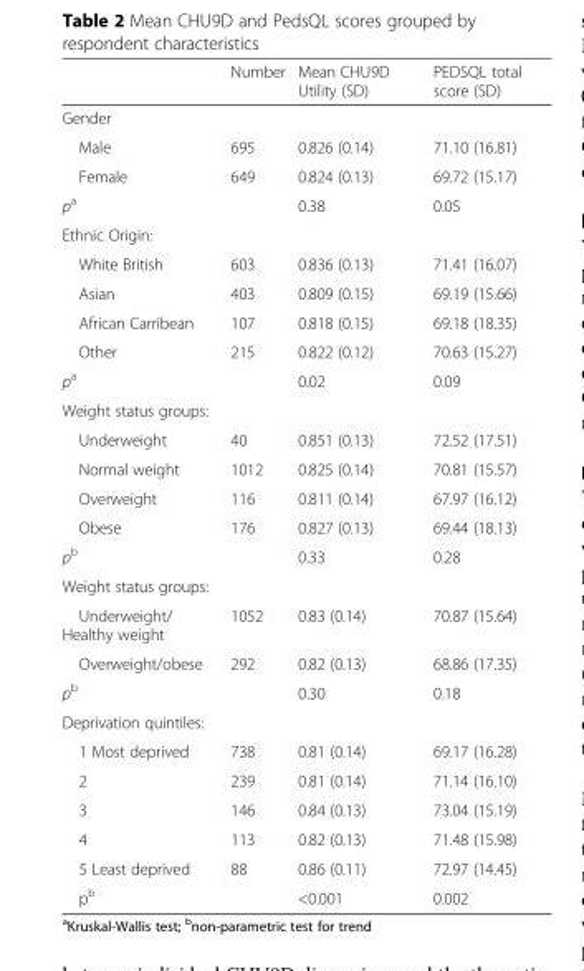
<table><thead><tr><td></td><td>Number</td><td>Mean CHU9D Utility (SD)</td><td>PEDSQL total score (SD)</td></tr></thead><tbody><tr><td colspan="4">Gender</td></tr><tr><td>Male</td><td>695</td><td>0.826 (0.14)</td><td>71.10 (16.81)</td></tr><tr><td>Female</td><td>649</td><td>0.824 (0.13)</td><td>69.72 (15.17)</td></tr><tr><td>p<sup>a</sup></td><td></td><td>0.38</td><td>0.05</td></tr><tr><td colspan="4">Ethnic Origin:</td></tr><tr><td>White British</td><td>603</td><td>0.836 (0.13)</td><td>71.41 (16.07)</td></tr><tr><td>Asian</td><td>403</td><td>0.809 (0.15)</td><td>69.19 (15.66)</td></tr><tr><td>African Carribean</td><td>107</td><td>0.818 (0.15)</td><td>69.18 (18.35)</td></tr><tr><td>Other</td><td>215</td><td>0.822 (0.12)</td><td>70.63 (15.27)</td></tr><tr><td>p<sup>a</sup></td><td></td><td>0.02</td><td>0.09</td></tr><tr><td colspan="4">Weight status groups:</td></tr><tr><td>Underweight</td><td>40</td><td>0.851 (0.13)</td><td>72.52 (17.51)</td></tr><tr><td>Normal weight</td><td>1012</td><td>0.825 (0.14)</td><td>70.81 (15.57)</td></tr><tr><td>Overweight</td><td>116</td><td>0.811 (0.14)</td><td>67.97 (16.12)</td></tr><tr><td>Obese</td><td>176</td><td>0.827 (0.13)</td><td>69.44 (18.13)</td></tr><tr><td>p<sup>b</sup></td><td></td><td>0.33</td><td>0.28</td></tr><tr><td colspan="4">Weight status groups:</td></tr><tr><td>Underweight/ Healthy weight</td><td>1052</td><td>0.83 (0.14)</td><td>70.87 (15.64)</td></tr><tr><td>Overweight/obese</td><td>292</td><td>0.82 (0.13)</td><td>68.86 (17.35)</td></tr><tr><td>p<sup>b</sup></td><td></td><td>0.30</td><td>0.18</td></tr><tr><td colspan="4">Deprivation quintiles:</td></tr><tr><td>1 Most deprived</td><td>738</td><td>0.81 (0.14)</td><td>69.17 (16.28)</td></tr><tr><td>2</td><td>239</td><td>0.81 (0.14)</td><td>71.14 (16.10)</td></tr><tr><td>3</td><td>146</td><td>0.84 (0.13)</td><td>73.04 (15.19)</td></tr><tr><td>4</td><td>113</td><td>0.82 (0.13)</td><td>71.48 (15.98)</td></tr><tr><td>5 Least deprived</td><td>88</td><td>0.86 (0.11)</td><td>72.97 (14.45)</td></tr><tr><td>p<sup>b</sup></td><td></td><td>&lt;0.001</td><td>0.002</td></tr></tbody></table>